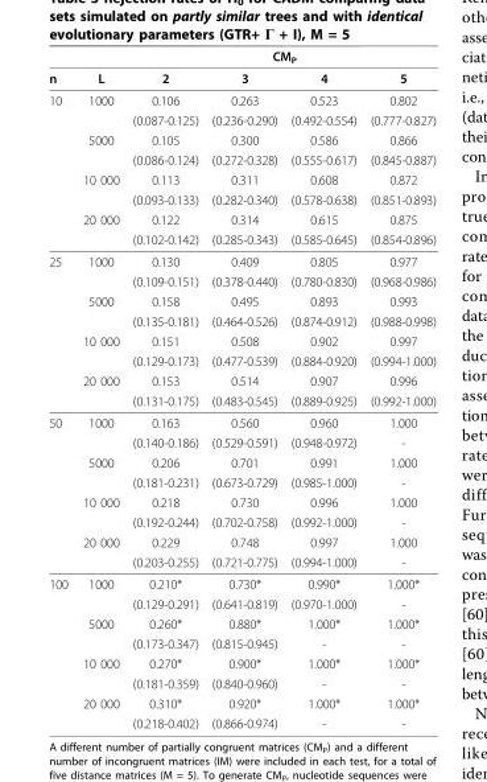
<table><thead><tr><td rowspan="2">n</td><td rowspan="2">L</td><td colspan="4">CM<sub>P</sub></td></tr><tr><td>2</td><td>3</td><td>4</td><td>5</td></tr></thead><tbody><tr><td rowspan="8">10</td><td>1000</td><td>0.106</td><td>0.263</td><td>0.523</td><td>0.802</td></tr><tr><td></td><td>(0.087-0.125)</td><td>(0.236-0.290)</td><td>(0.492-0.554)</td><td>(0.777-0.827)</td></tr><tr><td>5000</td><td>0.105</td><td>0.300</td><td>0.586</td><td>0.866</td></tr><tr><td></td><td>(0.086-0.124)</td><td>(0.272-0.328)</td><td>(0.555-0.617)</td><td>(0.845-0.887)</td></tr><tr><td>10 000</td><td>0.113</td><td>0.311</td><td>0.608</td><td>0.872</td></tr><tr><td></td><td>(0.093-0.133)</td><td>(0.282-0.340)</td><td>(0.578-0.638)</td><td>(0.851-0.893)</td></tr><tr><td>20 000</td><td>0.122</td><td>0.314</td><td>0.615</td><td>0.875</td></tr><tr><td></td><td>(0.102-0.142)</td><td>(0.285-0.343)</td><td>(0.585-0.645)</td><td>(0.854-0.896)</td></tr><tr><td rowspan="8">25</td><td>1000</td><td>0.130</td><td>0.409</td><td>0.805</td><td>0.977</td></tr><tr><td></td><td>(0.109-0.151)</td><td>(0.378-0.440)</td><td>(0.780-0.830)</td><td>(0.968-0.986)</td></tr><tr><td>5000</td><td>0.158</td><td>0.495</td><td>0.893</td><td>0.993</td></tr><tr><td></td><td>(0.135-0.181)</td><td>(0.464-0.526)</td><td>(0.874-0.912)</td><td>(0.988-0.998)</td></tr><tr><td>10 000</td><td>0.151</td><td>0.508</td><td>0.902</td><td>0.997</td></tr><tr><td></td><td>(0.129-0.173)</td><td>(0.477-0.539)</td><td>(0.884-0.920)</td><td>(0.994-1.000)</td></tr><tr><td>20 000</td><td>0.153</td><td>0.514</td><td>0.907</td><td>0.996</td></tr><tr><td></td><td>(0.131-0.175)</td><td>(0.483-0.545)</td><td>(0.889-0.925)</td><td>(0.992-1.000)</td></tr><tr><td rowspan="8">50</td><td>1000</td><td>0.163</td><td>0.560</td><td>0.960</td><td>1.000</td></tr><tr><td></td><td>(0.140-0.186)</td><td>(0.529-0.591)</td><td>(0.948-0.972)</td><td>-</td></tr><tr><td>5000</td><td>0.206</td><td>0.701</td><td>0.991</td><td>1.000</td></tr><tr><td></td><td>(0.181-0.231)</td><td>(0.673-0.729)</td><td>(0.985-1.000)</td><td>-</td></tr><tr><td>10 000</td><td>0.218</td><td>0.730</td><td>0.996</td><td>1.000</td></tr><tr><td></td><td>(0.192-0.244)</td><td>(0.702-0.758)</td><td>(0.992-1.000)</td><td>-</td></tr><tr><td>20 000</td><td>0.229</td><td>0.748</td><td>0.997</td><td>1.000</td></tr><tr><td></td><td>(0.203-0.255)</td><td>(0.721-0.775)</td><td>(0.994-1.000)</td><td>-</td></tr><tr><td rowspan="8">100</td><td>1000</td><td>0.210*</td><td>0.730*</td><td>0.990*</td><td>1.000*</td></tr><tr><td></td><td>(0.129-0.291)</td><td>(0.641-0.819)</td><td>(0.970-1.000)</td><td>-</td></tr><tr><td>5000</td><td>0.260*</td><td>0.880*</td><td>1.000*</td><td>1.000*</td></tr><tr><td></td><td>(0.173-0.347)</td><td>(0.815-0.945)</td><td>-</td><td>-</td></tr><tr><td>10 000</td><td>0.270*</td><td>0.900*</td><td>1.000*</td><td>1.000*</td></tr><tr><td></td><td>(0.181-0.359)</td><td>(0.840-0.960)</td><td>-</td><td>-</td></tr><tr><td>20 000</td><td>0.310*</td><td>0.920*</td><td>1.000*</td><td>1.000*</td></tr><tr><td></td><td>(0.218-0.402)</td><td>(0.866-0.974)</td><td>-</td><td>-</td></tr></tbody></table>